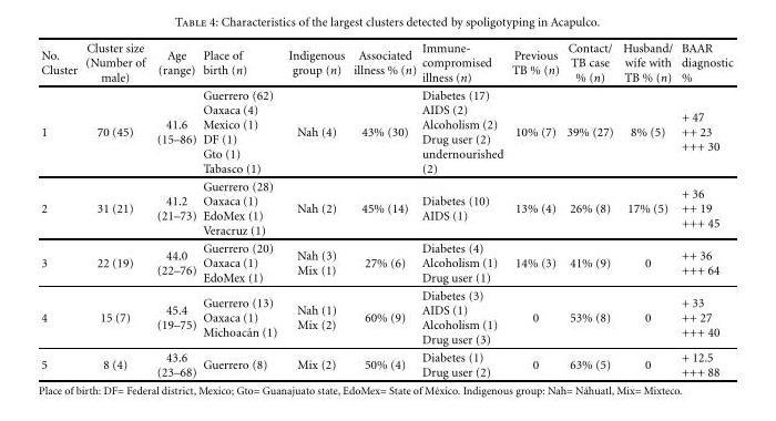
<table><thead><tr><td>No. Cluster</td><td>Cluster size (Number of male)</td><td>Age (range)</td><td>Place of birth (n)</td><td>Indigenous group (n)</td><td>Associated illness % (n)</td><td>Immune- compromised illness (n)</td><td>Previous TB % (n)</td><td>Contact/ TB case % (n)</td><td>Husband/ wife with TB % (n)</td><td>BAAR diagnostic %</td></tr></thead><tbody><tr><td>1</td><td>70 (45)</td><td>41.6 (15–86)</td><td>Guerrero (62) Oaxaca (4) Mexico (1) DF (1) Gto (1) Tabasco (1)</td><td>Nah (4)</td><td>43% (30)</td><td>Diabetes (17) AIDS (2) Alcoholism (2) Drug user (2) undernourished (2)</td><td>10% (7)</td><td>39% (27)</td><td>8% (5)</td><td>+ 47 ++ 23 +++ 30</td></tr><tr><td>2</td><td>31 (21)</td><td>41.2 (21–73)</td><td>Guerrero (28) Oaxaca (1) EdoMex (1) Veracruz (1)</td><td>Nah (2)</td><td>45% (14)</td><td>Diabetes (10) AIDS (1)</td><td>13% (4)</td><td>26% (8)</td><td>17% (5)</td><td>+ 36 ++ 19 +++ 45</td></tr><tr><td>3</td><td>22 (19)</td><td>44.0 (22–76)</td><td>Guerrero (20) Oaxaca (1) EdoMex (1)</td><td>Nah (3) Mix (1)</td><td>27% (6)</td><td>Diabetes (4) Alcoholism (1) Drug user (1)</td><td>14% (3)</td><td>41% (9)</td><td>0</td><td>++ 36 +++ 64</td></tr><tr><td>4</td><td>15 (7)</td><td>45.4 (19–75)</td><td>Guerrero (13) Oaxaca (1) Michoac´an (1)</td><td>Nah (1) Mix (2)</td><td>60% (9)</td><td>Diabetes (3) AIDS (1) Alcoholism (1) Drug user (3)</td><td>0</td><td>53% (8)</td><td>0</td><td>+ 33 ++ 27 +++ 40</td></tr><tr><td>5</td><td>8 (4)</td><td>43.6 (23–68)</td><td>Guerrero (8)</td><td>Mix (2)</td><td>50% (4)</td><td>Diabetes (1) Drug user (2)</td><td>0</td><td>63% (5)</td><td>0</td><td>+ 12.5 +++ 88</td></tr></tbody></table>